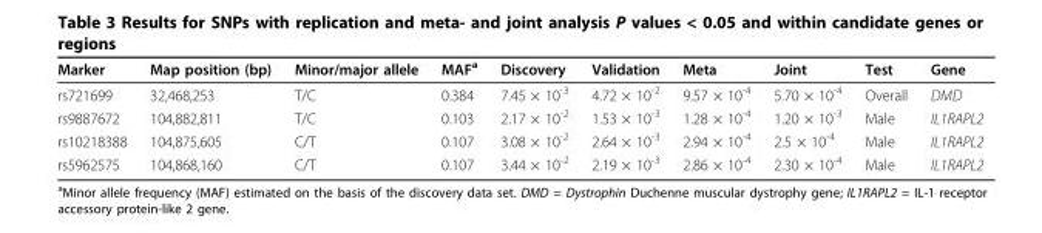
<table><thead><tr><td>Marker</td><td>Map position (bp)</td><td>Minor/major allele</td><td>MAF<sup>a</sup></td><td>Discovery</td><td>Validation</td><td>Meta</td><td>Joint</td><td>Test</td><td>Gene</td></tr></thead><tbody><tr><td>rs721699</td><td>32,468,253</td><td>T/C</td><td>0.384</td><td>7.45 × 10<sup>-3</sup></td><td>4.72 × 10<sup>-2</sup></td><td>9.57 × 10<sup>-4</sup></td><td>5.70 × 10<sup>-4</sup></td><td>Overall</td><td>DMD</td></tr><tr><td>rs9887672</td><td>104,882,811</td><td>T/C</td><td>0.103</td><td>2.17 × 10<sup>-2</sup></td><td>1.53 × 10<sup>-3</sup></td><td>1.28 × 10<sup>-4</sup></td><td>1.20 × 10<sup>-3</sup></td><td>Male</td><td>IL1RAPL2</td></tr><tr><td>rs10218388</td><td>104,875,605</td><td>C/T</td><td>0.107</td><td>3.08 × 10<sup>-2</sup></td><td>2.64 × 10<sup>-3</sup></td><td>2.94 × 10<sup>-4</sup></td><td>2.5 × 10<sup>-4</sup></td><td>Male</td><td>IL1RAPL2</td></tr><tr><td>rs5962575</td><td>104,868,160</td><td>C/T</td><td>0.107</td><td>3.44 × 10<sup>-2</sup></td><td>2.19 × 10<sup>-3</sup></td><td>2.86 × 10<sup>-4</sup></td><td>2.30 × 10<sup>-4</sup></td><td>Male</td><td>IL1RAPL2</td></tr></tbody></table>